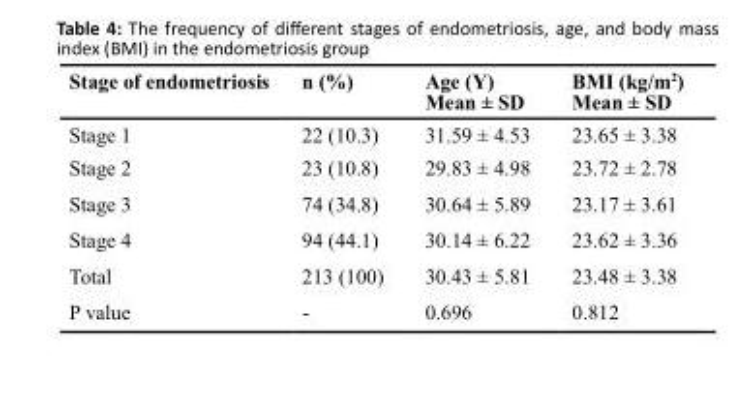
<table><thead><tr><td>Stage of endometriosis</td><td>n (%)</td><td>Age (Y) Mean ± SD</td><td>BMI (kg/m<sup>2</sup>) Mean ± SD</td></tr></thead><tbody><tr><td>Stage 1</td><td>22 (10.3)</td><td>31.59 ± 4.53</td><td>23.65 ± 3.38</td></tr><tr><td>Stage 2</td><td>23 (10.8)</td><td>29.83 ± 4.98</td><td>23.72 ± 2.78</td></tr><tr><td>Stage 3</td><td>74 (34.8)</td><td>30.64 ± 5.89</td><td>23.17 ± 3.61</td></tr><tr><td>Stage 4</td><td>94 (44.1)</td><td>30.14 ± 6.22</td><td>23.62 ± 3.36</td></tr><tr><td>Total</td><td>213 (100)</td><td>30.43 ± 5.81</td><td>23.48 ± 3.38</td></tr><tr><td colspan="2">P value -</td><td>0.696</td><td>0.812</td></tr></tbody></table>